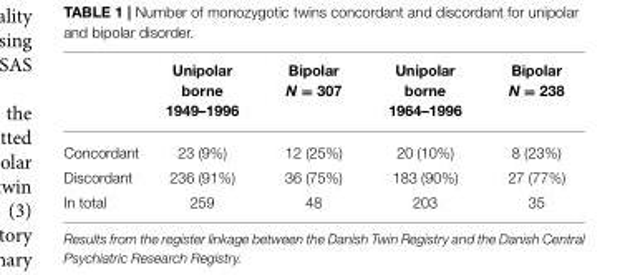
<table><thead><tr><td></td><td>Unipolar borne 1949–1996</td><td>Bipolar N = 307</td><td>Unipolar borne 1964–1996</td><td>Bipolar N = 238</td></tr></thead><tbody><tr><td>Concordant</td><td>23 (9%)</td><td>12 (25%)</td><td>20 (10%)</td><td>8 (23%)</td></tr><tr><td>Discordant</td><td>236 (91%)</td><td>36 (75%)</td><td>183 (90%)</td><td>27 (77%)</td></tr><tr><td>In total</td><td>259</td><td>48</td><td>203</td><td>35</td></tr></tbody></table>